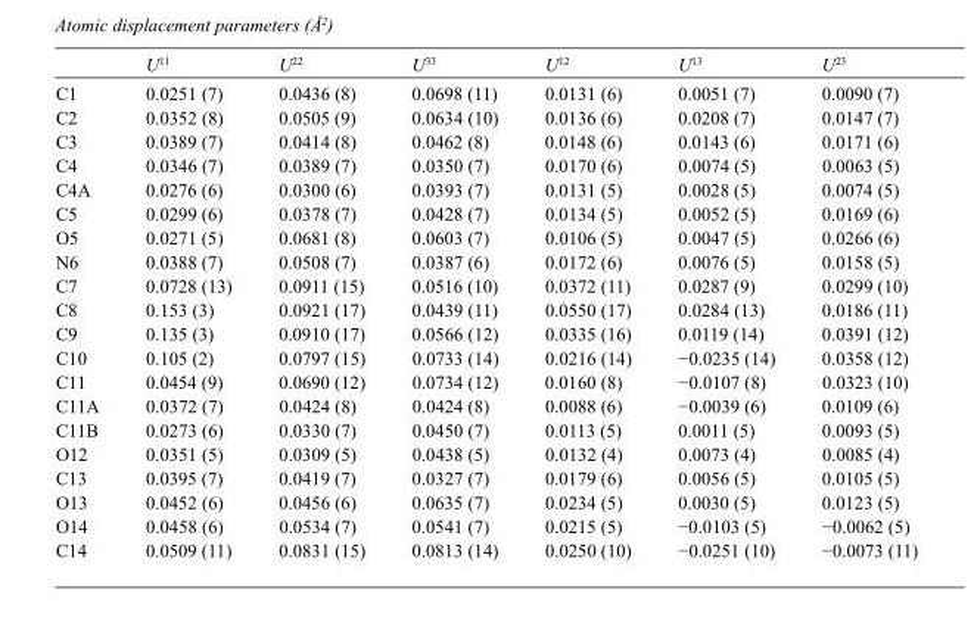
<table><thead><tr><td></td><td>U<sup>11</sup></td><td>U<sup>22</sup></td><td>U<sup>33</sup></td><td>U<sup>12</sup></td><td>U<sup>13</sup></td><td>U<sup>23</sup></td></tr></thead><tbody><tr><td>C1</td><td>0.0251 (7)</td><td>0.0436 (8)</td><td>0.0698 (11)</td><td>0.0131 (6)</td><td>0.0051 (7)</td><td>0.0090 (7)</td></tr><tr><td>C2</td><td>0.0352 (8)</td><td>0.0505 (9)</td><td>0.0634 (10)</td><td>0.0136 (6)</td><td>0.0208 (7)</td><td>0.0147 (7)</td></tr><tr><td>C3</td><td>0.0389 (7)</td><td>0.0414 (8)</td><td>0.0462 (8)</td><td>0.0148 (6)</td><td>0.0143 (6)</td><td>0.0171 (6)</td></tr><tr><td>C4</td><td>0.0346 (7)</td><td>0.0389 (7)</td><td>0.0350 (7)</td><td>0.0170 (6)</td><td>0.0074 (5)</td><td>0.0063 (5)</td></tr><tr><td>C4A</td><td>0.0276 (6)</td><td>0.0300 (6)</td><td>0.0393 (7)</td><td>0.0131 (5)</td><td>0.0028 (5)</td><td>0.0074 (5)</td></tr><tr><td>C5</td><td>0.0299 (6)</td><td>0.0378 (7)</td><td>0.0428 (7)</td><td>0.0134 (5)</td><td>0.0052 (5)</td><td>0.0169 (6)</td></tr><tr><td>O5</td><td>0.0271 (5)</td><td>0.0681 (8)</td><td>0.0603 (7)</td><td>0.0106 (5)</td><td>0.0047 (5)</td><td>0.0266 (6)</td></tr><tr><td>N6</td><td>0.0388 (7)</td><td>0.0508 (7)</td><td>0.0387 (6)</td><td>0.0172 (6)</td><td>0.0076 (5)</td><td>0.0158 (5)</td></tr><tr><td>C7</td><td>0.0728 (13)</td><td>0.0911 (15)</td><td>0.0516 (10)</td><td>0.0372 (11)</td><td>0.0287 (9)</td><td>0.0299 (10)</td></tr><tr><td>C8</td><td>0.153 (3)</td><td>0.0921 (17)</td><td>0.0439 (11)</td><td>0.0550 (17)</td><td>0.0284 (13)</td><td>0.0186 (11)</td></tr><tr><td>C9</td><td>0.135 (3)</td><td>0.0910 (17)</td><td>0.0566 (12)</td><td>0.0335 (16)</td><td>0.0119 (14)</td><td>0.0391 (12)</td></tr><tr><td>C10</td><td>0.105 (2)</td><td>0.0797 (15)</td><td>0.0733 (14)</td><td>0.0216 (14)</td><td>−0.0235 (14)</td><td>0.0358 (12)</td></tr><tr><td>C11</td><td>0.0454 (9)</td><td>0.0690 (12)</td><td>0.0734 (12)</td><td>0.0160 (8)</td><td>−0.0107 (8)</td><td>0.0323 (10)</td></tr><tr><td>C11A</td><td>0.0372 (7)</td><td>0.0424 (8)</td><td>0.0424 (8)</td><td>0.0088 (6)</td><td>−0.0039 (6)</td><td>0.0109 (6)</td></tr><tr><td>C11B</td><td>0.0273 (6)</td><td>0.0330 (7)</td><td>0.0450 (7)</td><td>0.0113 (5)</td><td>0.0011 (5)</td><td>0.0093 (5)</td></tr><tr><td>O12</td><td>0.0351 (5)</td><td>0.0309 (5)</td><td>0.0438 (5)</td><td>0.0132 (4)</td><td>0.0073 (4)</td><td>0.0085 (4)</td></tr><tr><td>C13</td><td>0.0395 (7)</td><td>0.0419 (7)</td><td>0.0327 (7)</td><td>0.0179 (6)</td><td>0.0056 (5)</td><td>0.0105 (5)</td></tr><tr><td>O13</td><td>0.0452 (6)</td><td>0.0456 (6)</td><td>0.0635 (7)</td><td>0.0234 (5)</td><td>0.0030 (5)</td><td>0.0123 (5)</td></tr><tr><td>O14</td><td>0.0458 (6)</td><td>0.0534 (7)</td><td>0.0541 (7)</td><td>0.0215 (5)</td><td>−0.0103 (5)</td><td>−0.0062 (5)</td></tr><tr><td>C14</td><td>0.0509 (11)</td><td>0.0831 (15)</td><td>0.0813 (14)</td><td>0.0250 (10)</td><td>−0.0251 (10)</td><td>−0.0073 (11)</td></tr></tbody></table>